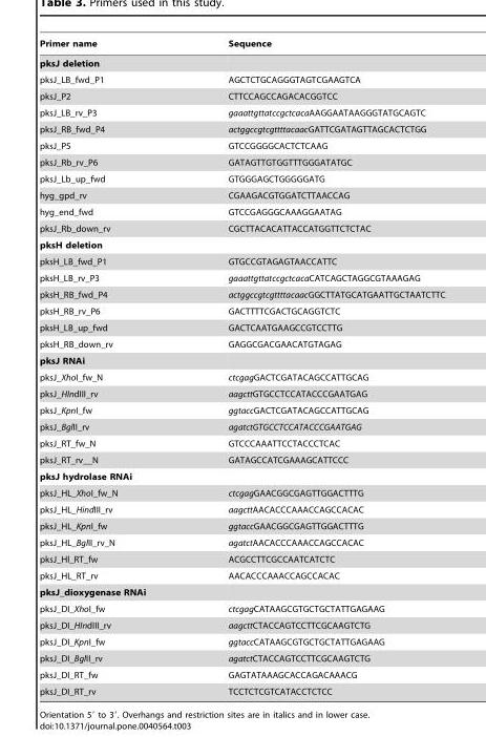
<table><thead><tr><td>Primer name</td><td>Sequence</td></tr></thead><tbody><tr><td colspan="2">pksJ deletion</td></tr><tr><td>pksJ_LB_fwd_P1</td><td>AGCTCTGCAGGGTAGTCGAAGTCA</td></tr><tr><td>pksJ_P2</td><td>CTTCCAGCCAGACACGGTCC</td></tr><tr><td>pksJ_LB_rv_P3</td><td>gaaattgttatccgctcacaAAGGAATAAGGGTATGCAGTC</td></tr><tr><td>pksJ_RB_fwd_P4</td><td>actggccgtcgttttacaacGATTCGATAGTTAGCACTCTGG</td></tr><tr><td>pksJ_P5</td><td>GTCCGGGGCACTCTCAAG</td></tr><tr><td>pksJ_Rb_rv_P6</td><td>GATAGTTGTGGTTTGGGATATGC</td></tr><tr><td>pksJ_Lb_up_fwd</td><td>GTGGGAGCTGGGGGATG</td></tr><tr><td>hyg_gpd_rv</td><td>CGAAGACGTGGATCTTAACCAG</td></tr><tr><td>hyg_end_fwd</td><td>GTCCGAGGGCAAAGGAATAG</td></tr><tr><td>pksJ_Rb_down_rv</td><td>CGCTTACACATTACCATGGTTCTCTAC</td></tr><tr><td colspan="2">pksH deletion</td></tr><tr><td>pksH_LB_fwd_P1</td><td>GTGCCGTAGAGTAACCATTC</td></tr><tr><td>pksH_LB_rv_P3</td><td>gaaattgttatccgctcacaCATCAGCTAGGCGTAAAGAG</td></tr><tr><td>pksH_RB_fwd_P4</td><td>actggccgtcgttttacaacGGCTTATGCATGAATTGCTAATCTTC</td></tr><tr><td>pksH_RB_rv_P6</td><td>GACTTTTCGACTGCAGGTCTC</td></tr><tr><td>pksH_LB_up_fwd</td><td>GACTCAATGAAGCCGTCCTTG</td></tr><tr><td>pksH_RB_down_rv</td><td>GAGGCGACGAACATGTAGAG</td></tr><tr><td colspan="2">pksJ RNAi</td></tr><tr><td>pksJ_XhoI_fw_N</td><td>ctcgagGACTCGATACAGCCATTGCAG</td></tr><tr><td>pksJ_HIndIII_rv</td><td>aagcttGTGCCTCCATACCCGAATGAG</td></tr><tr><td>pksJ_KpnI_fw</td><td>ggtaccGACTCGATACAGCCATTGCAG</td></tr><tr><td>pksJ_BglII_rv</td><td>agatctGTGCCTCCATACCCGAATGAG</td></tr><tr><td>pksJ_RT_fw_N</td><td>GTCCCAAATTCCTACCCTCAC</td></tr><tr><td>pksJ_RT_rv__N</td><td>GATAGCCATCGAAAGCATTCCC</td></tr><tr><td colspan="2">pksJ hydrolase RNAi</td></tr><tr><td>pksJ_HL_XhoI_fw_N</td><td>ctcgagGAACGGCGAGTTGGACTTTG</td></tr><tr><td>pksJ_HL_HindIII_rv</td><td>aagcttAACACCCAAACCAGCCACAC</td></tr><tr><td>pksJ_HL_KpnI_fw</td><td>ggtaccGAACGGCGAGTTGGACTTTG</td></tr><tr><td>pksJ_HL_BglII_rv_N</td><td>agatctAACACCCAAACCAGCCACAC</td></tr><tr><td>pksJ_Hl_RT_fw</td><td>ACGCCTTCGCCAATCATCTC</td></tr><tr><td>pksJ_HL_RT_rv</td><td>AACACCCAAACCAGCCACAC</td></tr><tr><td colspan="2">pksJ_dioxygenase RNAi</td></tr><tr><td>pksJ_DI_XhoI_fw</td><td>ctcgagCATAAGCGTGCTGCTATTGAGAAG</td></tr><tr><td>pksJ_DI_HIndIII_rv</td><td>aagcttCTACCAGTCCTTCGCAAGTCTG</td></tr><tr><td>pksJ_DI_KpnI_fw</td><td>ggtaccCATAAGCGTGCTGCTATTGAGAAG</td></tr><tr><td>pksJ_DI_BglII_rv</td><td>agatctCTACCAGTCCTTCGCAAGTCTG</td></tr><tr><td>pksJ_DI_RT_fw</td><td>GAGTATAAAGCACCAGACAAACG</td></tr><tr><td>pksJ_DI_RT_rv</td><td>TCCTCTCGTCATACCTCTCC</td></tr></tbody></table>